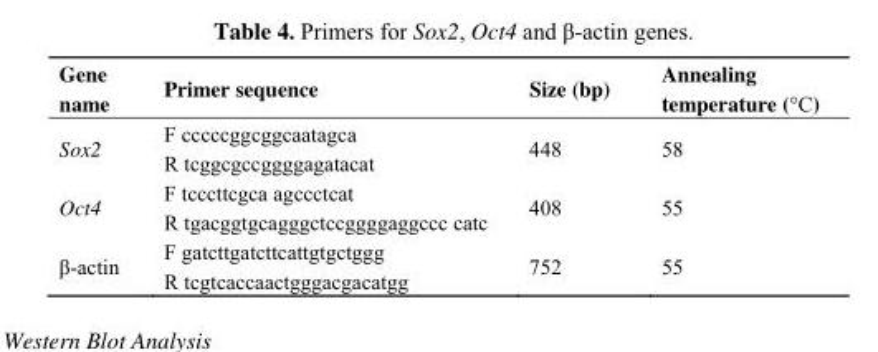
<table><thead><tr><td>Gene name</td><td>Primer sequence</td><td>Size (bp)</td><td>Annealing temperature (°C)</td></tr></thead><tbody><tr><td>Sox2</td><td>F cccccggcggcaatagca R tcggcgccggggagatacat</td><td>448</td><td>58</td></tr><tr><td>Oct4</td><td>F tcccttcgca agccctcat R tgacggtgcagggctccggggaggccc catc</td><td>408</td><td>55</td></tr><tr><td>β-actin</td><td>F gatcttgatcttcattgtgctggg R tcgtcaccaactgggacgacatgg</td><td>752</td><td>55</td></tr></tbody></table>